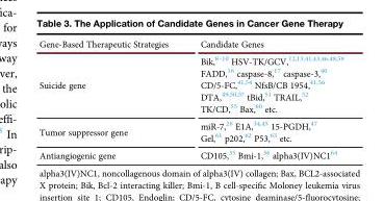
<table><thead><tr><td>Gene-Based Therapeutic Strategies</td><td>Candidate Genes</td></tr></thead><tbody><tr><td>Suicide gene</td><td>Bik,8–10 HSV-TK/GCV,12,13,41,43,46,48,59 FADD,16 caspase-8,17 caspase-3,40 CD/5-FC,41,54 NfsB/CB 1954,41,56 DTA,49,50,57 tBid,51 TRAIL,52 TK/CD,55 Bax,60 etc.</td></tr><tr><td>Tumor suppressor gene</td><td>miR-7,<sup>26</sup> E1A,<sup>34</sup>,<sup>45</sup> 15-PGDH,<sup>47</sup> Gel,<sup>61</sup> p202,<sup>62</sup> P53,<sup>63</sup> etc.</td></tr><tr><td>Antiangiogenic gene</td><td>CD105,<sup>35</sup> Bmi-1,<sup>36</sup> alpha3(IV)NC1<sup>64</sup></td></tr></tbody></table>